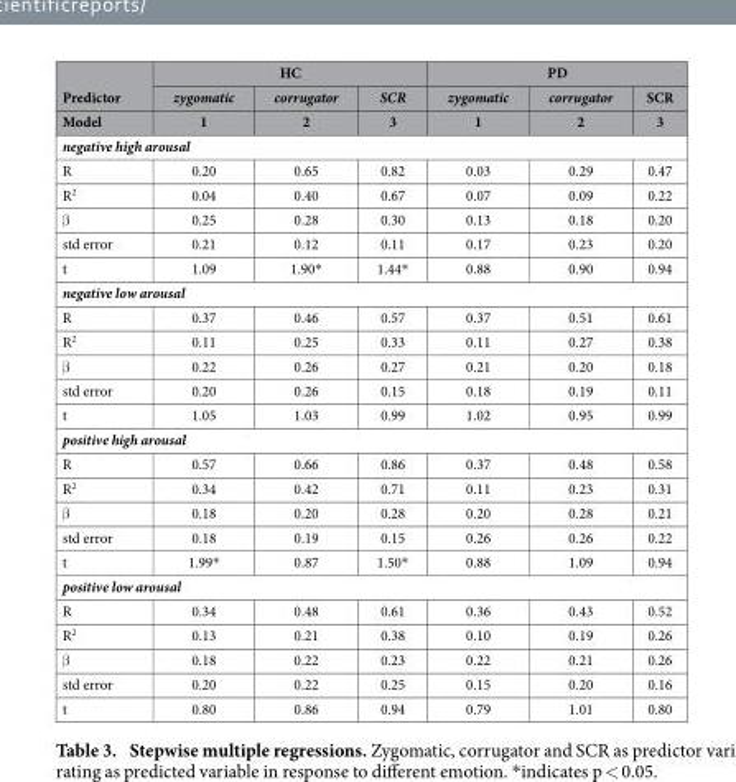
<table><thead><tr><td rowspan="3">Predictor Model</td><td colspan="3">HC</td><td colspan="3">PD</td></tr><tr><td rowspan="2">zygomatic 1</td><td rowspan="2">corrugator 2</td><td rowspan="2">SCR 3</td><td rowspan="2">zygomatic 1</td><td rowspan="2">corrugator 2</td><td rowspan="2">SCR 3</td></tr><tr></tr></thead><tbody><tr><td colspan="7">negative high arousal</td></tr><tr><td>R</td><td>0.20</td><td>0.65</td><td>0.82</td><td>0.03</td><td>0.29</td><td>0.47</td></tr><tr><td>R<sup>2</sup></td><td>0.04</td><td>0.40</td><td>0.67</td><td>0.07</td><td>0.09</td><td>0.22</td></tr><tr><td>β</td><td>0.25</td><td>0.28</td><td>0.30</td><td>0.13</td><td>0.18</td><td>0.20</td></tr><tr><td>std error</td><td>0.21</td><td>0.12</td><td>0.11</td><td>0.17</td><td>0.23</td><td>0.20</td></tr><tr><td>t</td><td>1.09</td><td>1.90*</td><td>1.44*</td><td>0.88</td><td>0.90</td><td>0.94</td></tr><tr><td colspan="7">negative low arousal</td></tr><tr><td>R</td><td>0.37</td><td>0.46</td><td>0.57</td><td>0.37</td><td>0.51</td><td>0.61</td></tr><tr><td>R<sup>2</sup></td><td>0.11</td><td>0.25</td><td>0.33</td><td>0.11</td><td>0.27</td><td>0.38</td></tr><tr><td>β</td><td>0.22</td><td>0.26</td><td>0.27</td><td>0.21</td><td>0.20</td><td>0.18</td></tr><tr><td>std error</td><td>0.20</td><td>0.26</td><td>0.15</td><td>0.18</td><td>0.19</td><td>0.11</td></tr><tr><td>t</td><td>1.05</td><td>1.03</td><td>0.99</td><td>1.02</td><td>0.95</td><td>0.99</td></tr><tr><td colspan="7">positive high arousal</td></tr><tr><td>R</td><td>0.57</td><td>0.66</td><td>0.86</td><td>0.37</td><td>0.48</td><td>0.58</td></tr><tr><td>R<sup>2</sup></td><td>0.34</td><td>0.42</td><td>0.71</td><td>0.11</td><td>0.23</td><td>0.31</td></tr><tr><td>β</td><td>0.18</td><td>0.20</td><td>0.28</td><td>0.20</td><td>0.28</td><td>0.21</td></tr><tr><td>std error</td><td>0.18</td><td>0.19</td><td>0.15</td><td>0.26</td><td>0.26</td><td>0.22</td></tr><tr><td>t</td><td>1.99*</td><td>0.87</td><td>1.50*</td><td>0.88</td><td>1.09</td><td>0.94</td></tr><tr><td colspan="7">positive low arousal</td></tr><tr><td>R</td><td>0.34</td><td>0.48</td><td>0.61</td><td>0.36</td><td>0.43</td><td>0.52</td></tr><tr><td>R<sup>2</sup></td><td>0.13</td><td>0.21</td><td>0.38</td><td>0.10</td><td>0.19</td><td>0.26</td></tr><tr><td>β</td><td>0.18</td><td>0.22</td><td>0.23</td><td>0.22</td><td>0.21</td><td>0.26</td></tr><tr><td>std error</td><td>0.20</td><td>0.22</td><td>0.25</td><td>0.15</td><td>0.20</td><td>0.16</td></tr><tr><td>t</td><td>0.80</td><td>0.86</td><td>0.94</td><td>0.79</td><td>1.01</td><td>0.80</td></tr></tbody></table>